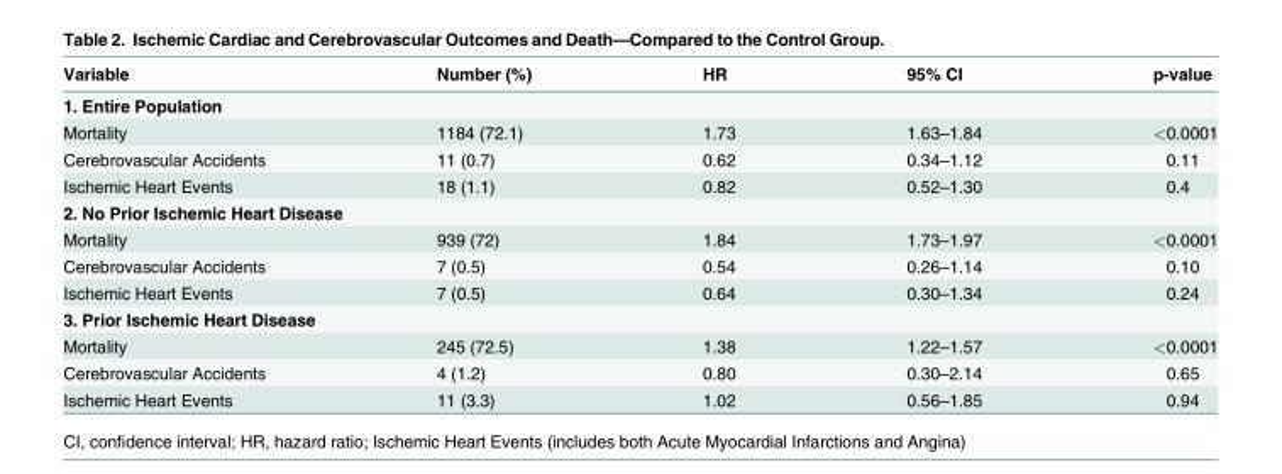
<table><thead><tr><td>Variable</td><td>Number (%)</td><td>HR</td><td>95% CI</td><td>p-value</td></tr></thead><tbody><tr><td colspan="5">1. Entire Population</td></tr><tr><td>Mortality</td><td>1184 (72.1)</td><td>1.73</td><td>1.63–1.84</td><td>&lt;0.0001</td></tr><tr><td>Cerebrovascular Accidents</td><td>11 (0.7)</td><td>0.62</td><td>0.34–1.12</td><td>0.11</td></tr><tr><td>Ischemic Heart Events</td><td>18 (1.1)</td><td>0.82</td><td>0.52–1.30</td><td>0.4</td></tr><tr><td colspan="5">2. No Prior Ischemic Heart Disease</td></tr><tr><td>Mortality</td><td>939 (72)</td><td>1.84</td><td>1.73–1.97</td><td>&lt;0.0001</td></tr><tr><td>Cerebrovascular Accidents</td><td>7 (0.5)</td><td>0.54</td><td>0.26–1.14</td><td>0.10</td></tr><tr><td>Ischemic Heart Events</td><td>7 (0.5)</td><td>0.64</td><td>0.30–1.34</td><td>0.24</td></tr><tr><td colspan="5">3. Prior Ischemic Heart Disease</td></tr><tr><td>Mortality</td><td>245 (72.5)</td><td>1.38</td><td>1.22–1.57</td><td>&lt;0.0001</td></tr><tr><td>Cerebrovascular Accidents</td><td>4 (1.2)</td><td>0.80</td><td>0.30–2.14</td><td>0.65</td></tr><tr><td>Ischemic Heart Events</td><td>11 (3.3)</td><td>1.02</td><td>0.56–1.85</td><td>0.94</td></tr></tbody></table>